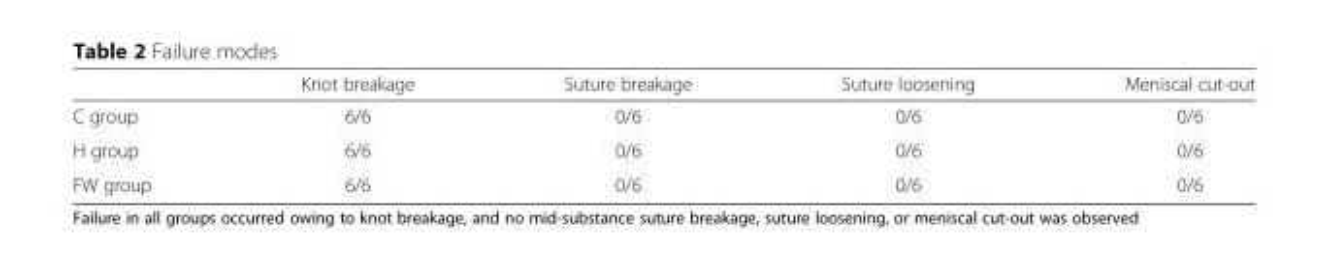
<table><thead><tr><td></td><td>Knot breakage</td><td>Suture breakage</td><td>Suture loosening</td><td>Meniscal cut-out</td></tr></thead><tbody><tr><td>C group</td><td>6/6</td><td>0/6</td><td>0/6</td><td>0/6</td></tr><tr><td>H group</td><td>6/6</td><td>0/6</td><td>0/6</td><td>0/6</td></tr><tr><td>FW group</td><td>6/6</td><td>0/6</td><td>0/6</td><td>0/6</td></tr></tbody></table>